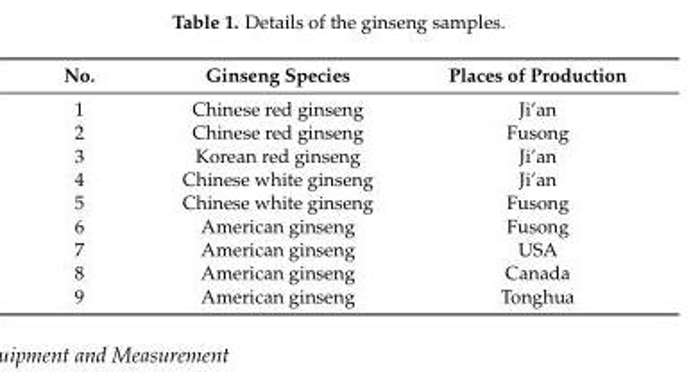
<table><thead><tr><td>No.</td><td>Ginseng Species</td><td>Places of Production</td></tr></thead><tbody><tr><td>1</td><td>Chinese red ginseng</td><td>Ji’an</td></tr><tr><td>2</td><td>Chinese red ginseng</td><td>Fusong</td></tr><tr><td>3</td><td>Korean red ginseng</td><td>Ji’an</td></tr><tr><td>4</td><td>Chinese white ginseng</td><td>Ji’an</td></tr><tr><td>5</td><td>Chinese white ginseng</td><td>Fusong</td></tr><tr><td>6</td><td>American ginseng</td><td>Fusong</td></tr><tr><td>7</td><td>American ginseng</td><td>USA</td></tr><tr><td>8</td><td>American ginseng</td><td>Canada</td></tr><tr><td>9</td><td>American ginseng</td><td>Tonghua</td></tr></tbody></table>